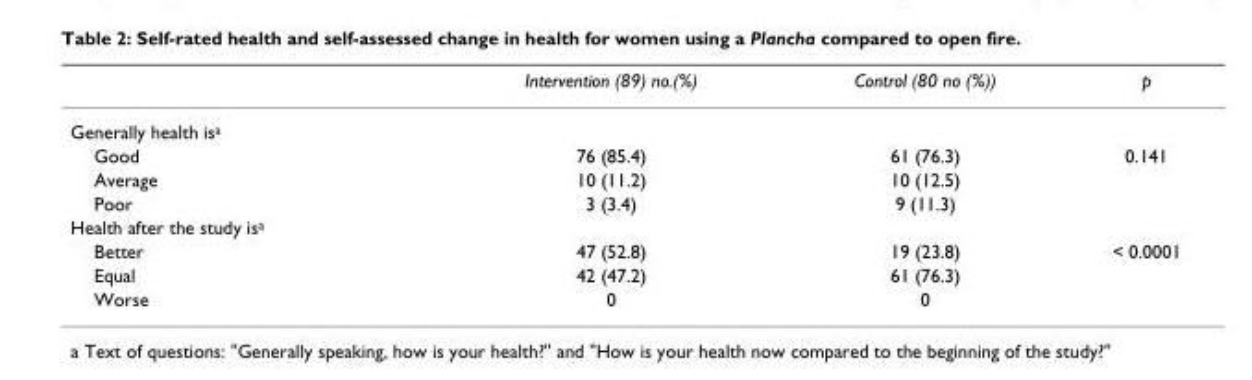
<table><thead><tr><td></td><td>Intervention (89) no.(%)</td><td>Control (80 no (%))</td><td>p</td></tr></thead><tbody><tr><td colspan="4">Generally health is<sup>a</sup></td></tr><tr><td>Good</td><td>76 (85.4)</td><td>61 (76.3)</td><td>0.141</td></tr><tr><td>Average</td><td>10 (11.2)</td><td>10 (12.5)</td><td></td></tr><tr><td>Poor</td><td>3 (3.4)</td><td>9 (11.3)</td><td></td></tr><tr><td colspan="4">Health after the study is<sup>a</sup></td></tr><tr><td>Better</td><td>47 (52.8)</td><td>19 (23.8)</td><td>&lt; 0.0001</td></tr><tr><td>Equal</td><td>42 (47.2)</td><td>61 (76.3)</td><td></td></tr><tr><td>Worse</td><td>0</td><td>0</td><td></td></tr></tbody></table>